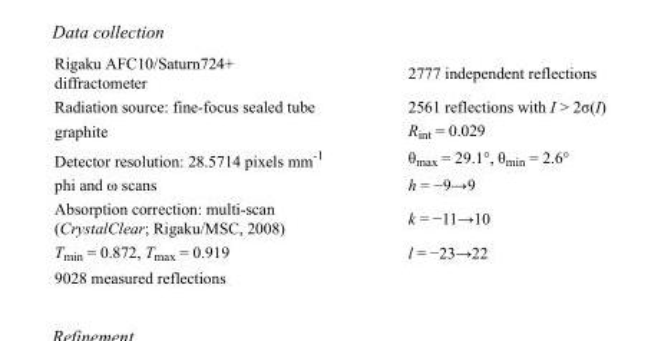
<table><tbody><tr><td>Rigaku AFC10/Saturn724+ diffractometer</td><td>2777 independent reflections</td></tr><tr><td>Radiation source: fine-focus sealed tube</td><td>2561 reflections with I &gt; 2σ(I)</td></tr><tr><td>graphite</td><td>R<sub>int</sub> = 0.029</td></tr><tr><td>Detector resolution: 28.5714 pixels mm<sup>-1</sup></td><td>θ<sub>max</sub> = 29.1°, θ<sub>min</sub> = 2.6°</td></tr><tr><td>phi and ω scans</td><td>h = −9→9</td></tr><tr><td>Absorption correction: multi-scan (CrystalClear; Rigaku/MSC, 2008)</td><td>k = −11→10</td></tr><tr><td>T<sub>min</sub> = 0.872, T<sub>max</sub> = 0.919</td><td>l = −23→22</td></tr><tr><td>9028 measured reflections</td><td></td></tr></tbody></table>